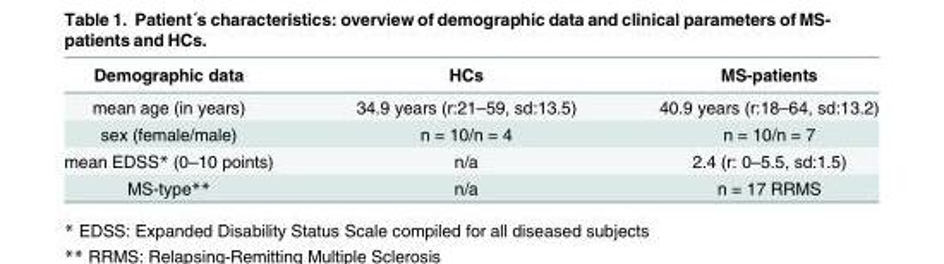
<table><thead><tr><td>Demographic data</td><td>HCs</td><td>MS-patients</td></tr></thead><tbody><tr><td>mean age (in years)</td><td>34.9 years (r:21–59, sd:13.5)</td><td>40.9 years (r:18–64, sd:13.2)</td></tr><tr><td>sex (female/male)</td><td>n = 10/n = 4</td><td>n = 10/n = 7</td></tr><tr><td>mean EDSS* (0–10 points)</td><td>n/a</td><td>2.4 (r: 0–5.5, sd:1.5)</td></tr><tr><td>MS-type**</td><td>n/a</td><td>n = 17 RRMS</td></tr></tbody></table>